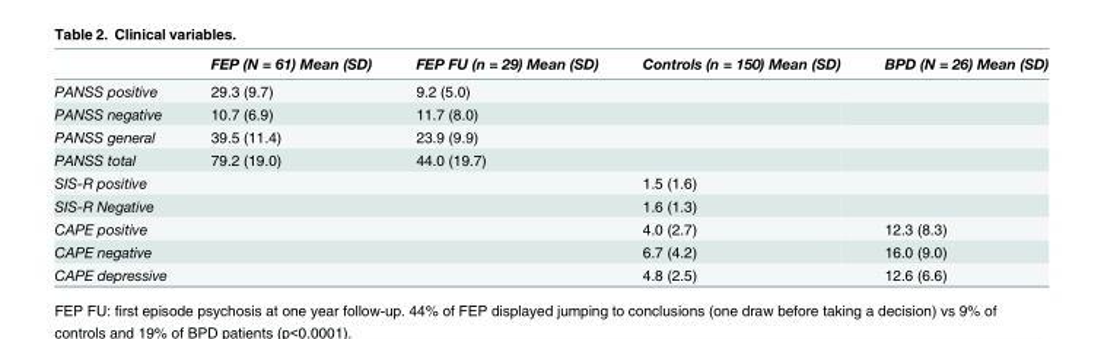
<table><thead><tr><td></td><td>FEP (N = 61) Mean (SD)</td><td>FEP FU (n = 29) Mean (SD)</td><td>Controls (n = 150) Mean (SD)</td><td>BPD (N = 26) Mean (SD)</td></tr></thead><tbody><tr><td>PANSS positive</td><td>29.3 (9.7)</td><td>9.2 (5.0)</td><td></td><td></td></tr><tr><td>PANSS negative</td><td>10.7 (6.9)</td><td>11.7 (8.0)</td><td></td><td></td></tr><tr><td>PANSS general</td><td>39.5 (11.4)</td><td>23.9 (9.9)</td><td></td><td></td></tr><tr><td>PANSS total</td><td>79.2 (19.0)</td><td>44.0 (19.7)</td><td></td><td></td></tr><tr><td>SIS-R positive</td><td></td><td></td><td>1.5 (1.6)</td><td></td></tr><tr><td>SIS-R Negative</td><td></td><td></td><td>1.6 (1.3)</td><td></td></tr><tr><td>CAPE positive</td><td></td><td></td><td>4.0 (2.7)</td><td>12.3 (8.3)</td></tr><tr><td>CAPE negative</td><td></td><td></td><td>6.7 (4.2)</td><td>16.0 (9.0)</td></tr><tr><td>CAPE depressive</td><td></td><td></td><td>4.8 (2.5)</td><td>12.6 (6.6)</td></tr></tbody></table>